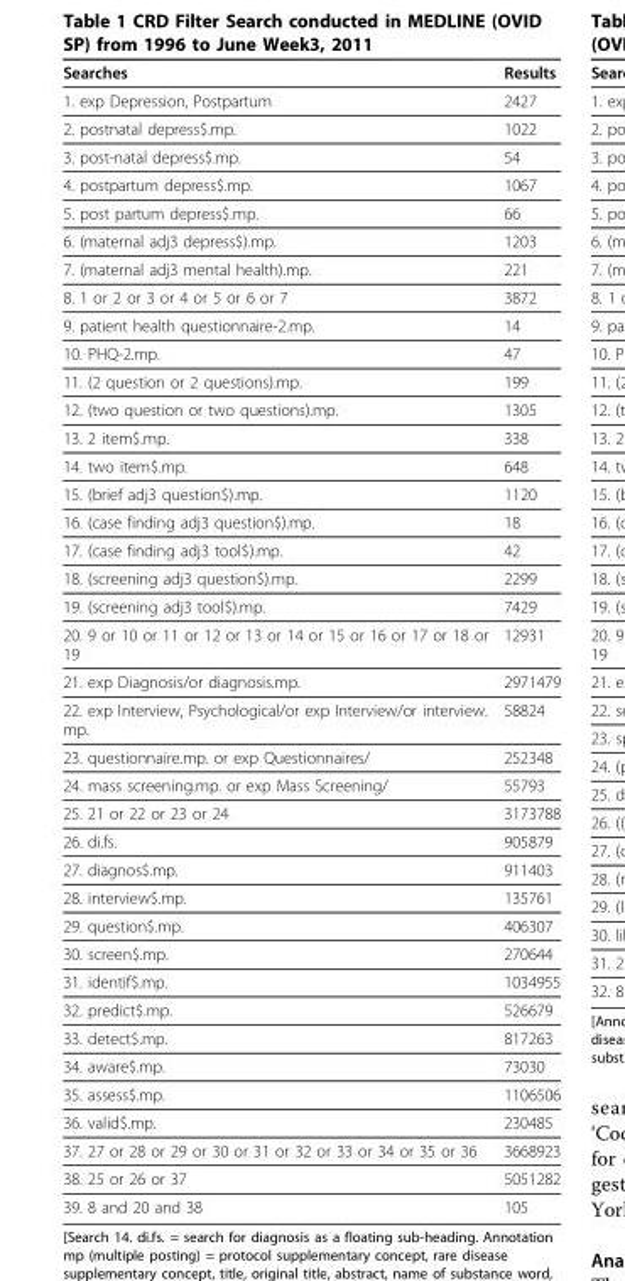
<table><thead><tr><td>Searches</td><td>Results</td></tr></thead><tbody><tr><td>1. exp Depression, Postpartum</td><td>2427</td></tr><tr><td>2. postnatal depress$.mp.</td><td>1022</td></tr><tr><td>3. post-natal depress$.mp.</td><td>54</td></tr><tr><td>4. postpartum depress$.mp.</td><td>1067</td></tr><tr><td>5. post partum depress$.mp.</td><td>66</td></tr><tr><td>6. (maternal adj3 depress$).mp.</td><td>1203</td></tr><tr><td>7. (maternal adj3 mental health).mp.</td><td>221</td></tr><tr><td>8. 1 or 2 or 3 or 4 or 5 or 6 or 7</td><td>3872</td></tr><tr><td>9. patient health questionnaire-2.mp.</td><td>14</td></tr><tr><td>10. PHQ-2.mp.</td><td>47</td></tr><tr><td>11. (2 question or 2 questions).mp.</td><td>199</td></tr><tr><td>12. (two question or two questions).mp.</td><td>1305</td></tr><tr><td>13. 2 item$.mp.</td><td>338</td></tr><tr><td>14. two item$.mp.</td><td>648</td></tr><tr><td>15. (brief adj3 question$).mp.</td><td>1120</td></tr><tr><td>16. (case finding adj3 question$).mp.</td><td>18</td></tr><tr><td>17. (case finding adj3 tool$).mp.</td><td>42</td></tr><tr><td>18. (screening adj3 question$).mp.</td><td>2299</td></tr><tr><td>19. (screening adj3 tool$).mp.</td><td>7429</td></tr><tr><td>20. 9 or 10 or 11 or 12 or 13 or 14 or 15 or 16 or 17 or 18 or 19</td><td>12931</td></tr><tr><td>21. exp Diagnosis/or diagnosis.mp.</td><td>2971479</td></tr><tr><td>22. exp Interview, Psychological/or exp Interview/or interview. mp.</td><td>58824</td></tr><tr><td>23. questionnaire.mp. or exp Questionnaires/</td><td>252348</td></tr><tr><td>24. mass screening.mp. or exp Mass Screening/</td><td>55793</td></tr><tr><td>25. 21 or 22 or 23 or 24</td><td>3173788</td></tr><tr><td>26. di.fs.</td><td>905879</td></tr><tr><td>27. diagnos$.mp.</td><td>911403</td></tr><tr><td>28. interview$.mp.</td><td>135761</td></tr><tr><td>29. question$.mp.</td><td>406307</td></tr><tr><td>30. screen$.mp.</td><td>270644</td></tr><tr><td>31. identif$.mp.</td><td>1034955</td></tr><tr><td>32. predict$.mp.</td><td>526679</td></tr><tr><td>33. detect$.mp.</td><td>817263</td></tr><tr><td>34. aware$.mp.</td><td>73030</td></tr><tr><td>35. assess$.mp.</td><td>1106506</td></tr><tr><td>36. valid$.mp.</td><td>230485</td></tr><tr><td>37. 27 or 28 or 29 or 30 or 31 or 32 or 33 or 34 or 35 or 36</td><td>3668923</td></tr><tr><td>38. 25 or 26 or 37</td><td>5051282</td></tr><tr><td>39. 8 and 20 and 38</td><td>105</td></tr></tbody></table>